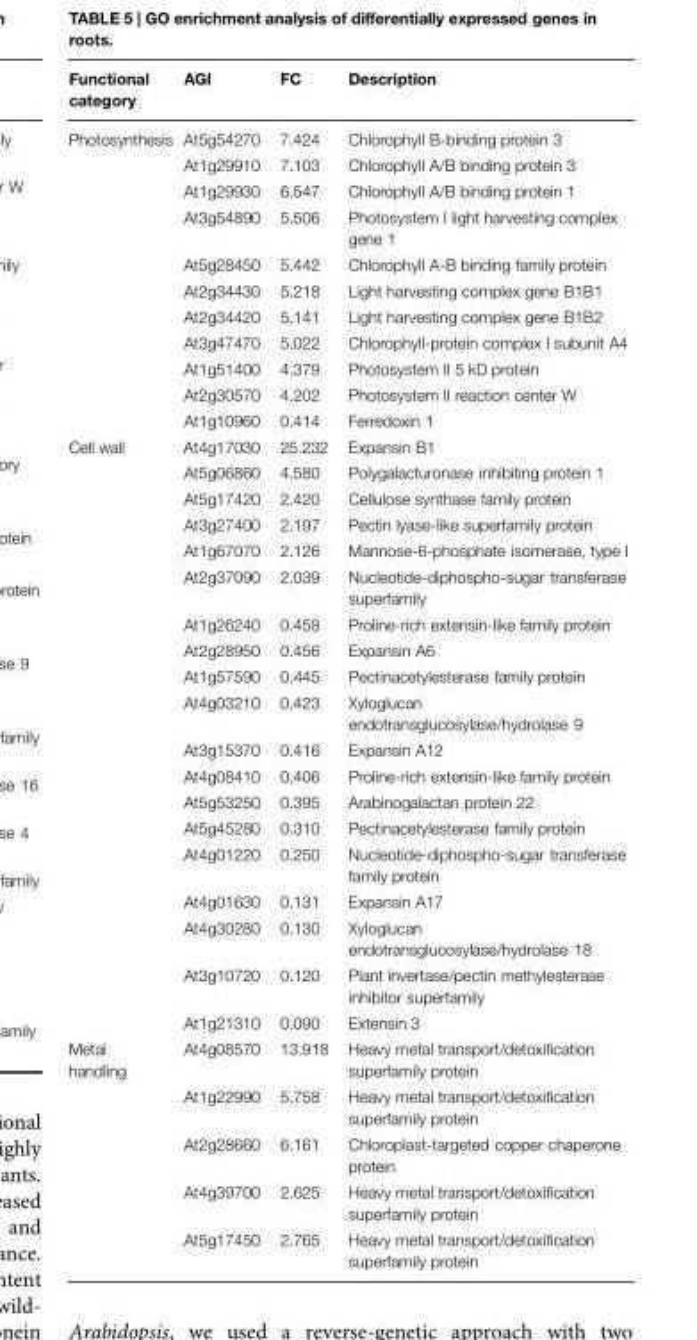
<table><thead><tr><td>Functional category</td><td>AGI</td><td>FC</td><td>Description</td></tr></thead><tbody><tr><td rowspan="11">Photosynthesis</td><td>At5g54270</td><td>7.424</td><td>Chlorophyll B-binding protein 3</td></tr><tr><td>At1g29910</td><td>7.103</td><td>Chlorophyll A/B binding protein 3</td></tr><tr><td>At1g29930</td><td>6.547</td><td>Chlorophyll A/B binding protein 1</td></tr><tr><td>At3g54890</td><td>5.506</td><td>Photosystem I light harvesting complex gene 1</td></tr><tr><td>At5g28450</td><td>5.442</td><td>Chlorophyll A-B binding family protein</td></tr><tr><td>At2g34430</td><td>5.218</td><td>Light harvesting complex gene B1B1</td></tr><tr><td>At2g34420</td><td>5.141</td><td>Light harvesting complex gene B1B2</td></tr><tr><td>At3g47470</td><td>5.022</td><td>Chlorophyll-protein complex I subunit A4</td></tr><tr><td>At1g51400</td><td>4.379</td><td>Photosystem II 5 kD protein</td></tr><tr><td>At2g30570</td><td>4.202</td><td>Photosystem II reaction center W</td></tr><tr><td>At1g10960</td><td>0.414</td><td>Ferredoxin 1</td></tr><tr><td rowspan="19">Cell wall</td><td>At4g17030</td><td>25.232</td><td>Expansin B1</td></tr><tr><td>At5g06860</td><td>4.580</td><td>Polygalacturonase inhibiting protein 1</td></tr><tr><td>At5g17420</td><td>2.420</td><td>Cellulose synthase family protein</td></tr><tr><td>At3g27400</td><td>2.197</td><td>Pectin lyase-like superfamily protein</td></tr><tr><td>At1g67070</td><td>2.126</td><td>Mannose-6-phosphate isomerase, type I</td></tr><tr><td>At2g37090</td><td>2.039</td><td>Nucleotide-diphospho-sugar transferase superfamily</td></tr><tr><td>At1g26240</td><td>0.458</td><td>Proline-rich extensin-like family protein</td></tr><tr><td>At2g28950</td><td>0.456</td><td>Expansin A6</td></tr><tr><td>At1g57590</td><td>0.445</td><td>Pectinacetylesterase family protein</td></tr><tr><td>At4g03210</td><td>0.423</td><td>Xyloglucan endotransglucosylase/hydrolase 9</td></tr><tr><td>At3g15370</td><td>0.416</td><td>Expansin A12</td></tr><tr><td>At4g08410</td><td>0.406</td><td>Proline-rich extensin-like family protein</td></tr><tr><td>At5g53250</td><td>0.395</td><td>Arabinogalactan protein 22</td></tr><tr><td>At5g45280</td><td>0.310</td><td>Pectinacetylesterase family protein</td></tr><tr><td>At4g01220</td><td>0.250</td><td>Nucleotide-diphospho-sugar transferase family protein</td></tr><tr><td>At4g01630</td><td>0.131</td><td>Expansin A17</td></tr><tr><td>At4g30280</td><td>0.130</td><td>Xyloglucan endotransglucosylase/hydrolase 18</td></tr><tr><td>At3g10720</td><td>0.120</td><td>Plant invertase/pectin methylesterase inhibitor superfamily</td></tr><tr><td>At1g21310</td><td>0.090</td><td>Extensin 3</td></tr><tr><td rowspan="5">Metal handling</td><td>At4g08570</td><td>13.918</td><td>Heavy metal transport/detoxification superfamily protein</td></tr><tr><td>At1g22990</td><td>5.758</td><td>Heavy metal transport/detoxification superfamily protein</td></tr><tr><td>At2g28660</td><td>6.161</td><td>Chloroplast-targeted copper chaperone protein</td></tr><tr><td>At4g39700</td><td>2.625</td><td>Heavy metal transport/detoxification superfamily protein</td></tr><tr><td>At5g17450</td><td>2.765</td><td>Heavy metal transport/detoxification superfamily protein</td></tr></tbody></table>